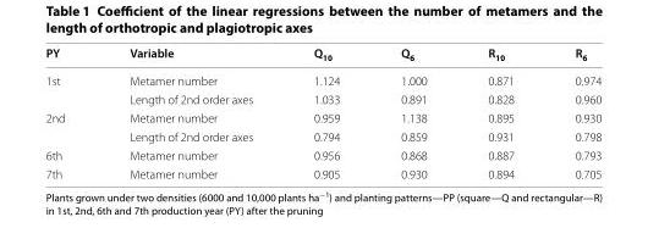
<table><thead><tr><td>PY</td><td>Variable</td><td>Q<sub>10</sub></td><td>Q<sub>6</sub></td><td>R<sub>10</sub></td><td>R<sub>6</sub></td></tr></thead><tbody><tr><td rowspan="2">1st</td><td>Metamer number</td><td>1.124</td><td>1.000</td><td>0.871</td><td>0.974</td></tr><tr><td>Length of 2nd order axes</td><td>1.033</td><td>0.891</td><td>0.828</td><td>0.960</td></tr><tr><td rowspan="2">2nd</td><td>Metamer number</td><td>0.959</td><td>1.138</td><td>0.895</td><td>0.930</td></tr><tr><td>Length of 2nd order axes</td><td>0.794</td><td>0.859</td><td>0.931</td><td>0.798</td></tr><tr><td>6th</td><td>Metamer number</td><td>0.956</td><td>0.868</td><td>0.887</td><td>0.793</td></tr><tr><td>7th</td><td>Metamer number</td><td>0.905</td><td>0.930</td><td>0.894</td><td>0.705</td></tr></tbody></table>